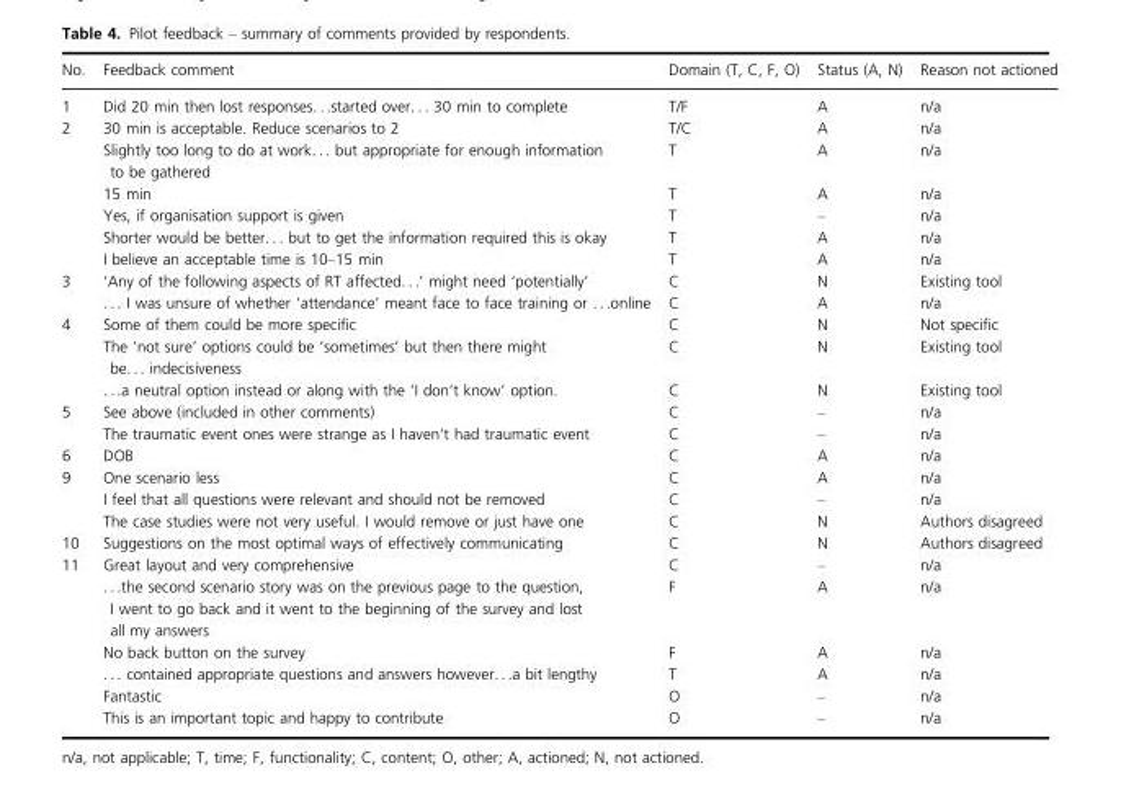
<table><thead><tr><td>No.</td><td>Feedback comment</td><td>Domain (T, C, F, O)</td><td>Status (A, N)</td><td>Reason not actioned</td></tr></thead><tbody><tr><td>1</td><td>Did 20 min then lost responses. . .started over. . . 30 min to complete</td><td>T/F</td><td>A</td><td>n/a</td></tr><tr><td rowspan="6">2</td><td>30 min is acceptable. Reduce scenarios to 2</td><td>T/C</td><td>A</td><td>n/a</td></tr><tr><td>Slightly too long to do at work. . . but appropriate for enough information to be gathered</td><td>T</td><td>A</td><td>n/a</td></tr><tr><td>15 min</td><td>T</td><td>A</td><td>n/a</td></tr><tr><td>Yes, if organisation support is given</td><td>T</td><td>–</td><td>n/a</td></tr><tr><td>Shorter would be better. . . but to get the information required this is okay</td><td>T</td><td>A</td><td>n/a</td></tr><tr><td>I believe an acceptable time is 10–15 min</td><td>T</td><td>A</td><td>n/a</td></tr><tr><td rowspan="2">3</td><td>‘Any of the following aspects of RT affected. . .’ might need ‘potentially’</td><td>C</td><td>N</td><td>Existing tool</td></tr><tr><td>. . . I was unsure of whether ‘attendance’ meant face to face training or . . .online</td><td>C</td><td>A</td><td>n/a</td></tr><tr><td rowspan="3">4</td><td>Some of them could be more specific</td><td>C</td><td>N</td><td>Not specific</td></tr><tr><td>The ‘not sure’ options could be ‘sometimes’ but then there might be. . . indecisiveness</td><td>C</td><td>N</td><td>Existing tool</td></tr><tr><td>. . .a neutral option instead or along with the ‘I don’t know’ option.</td><td>C</td><td>N</td><td>Existing tool</td></tr><tr><td rowspan="2">5</td><td>See above (included in other comments)</td><td>C</td><td>–</td><td>n/a</td></tr><tr><td>The traumatic event ones were strange as I haven’t had traumatic event</td><td>C</td><td>–</td><td>n/a</td></tr><tr><td>6</td><td>DOB</td><td>C</td><td>A</td><td>n/a</td></tr><tr><td rowspan="3">9</td><td>One scenario less</td><td>C</td><td>A</td><td>n/a</td></tr><tr><td>I feel that all questions were relevant and should not be removed</td><td>C</td><td>–</td><td>n/a</td></tr><tr><td>The case studies were not very useful. I would remove or just have one</td><td>C</td><td>N</td><td>Authors disagreed</td></tr><tr><td>10</td><td>Suggestions on the most optimal ways of effectively communicating</td><td>C</td><td>N</td><td>Authors disagreed</td></tr><tr><td rowspan="6">11</td><td>Great layout and very comprehensive</td><td>C</td><td>–</td><td>n/a</td></tr><tr><td>. . .the second scenario story was on the previous page to the question, I went to go back and it went to the beginning of the survey and lost all my answers</td><td>F</td><td>A</td><td>n/a</td></tr><tr><td>No back button on the survey</td><td>F</td><td>A</td><td>n/a</td></tr><tr><td>. . . contained appropriate questions and answers however. . .a bit lengthy</td><td>T</td><td>A</td><td>n/a</td></tr><tr><td>Fantastic</td><td>O</td><td>–</td><td>n/a</td></tr><tr><td>This is an important topic and happy to contribute</td><td>O</td><td>–</td><td>n/a</td></tr></tbody></table>